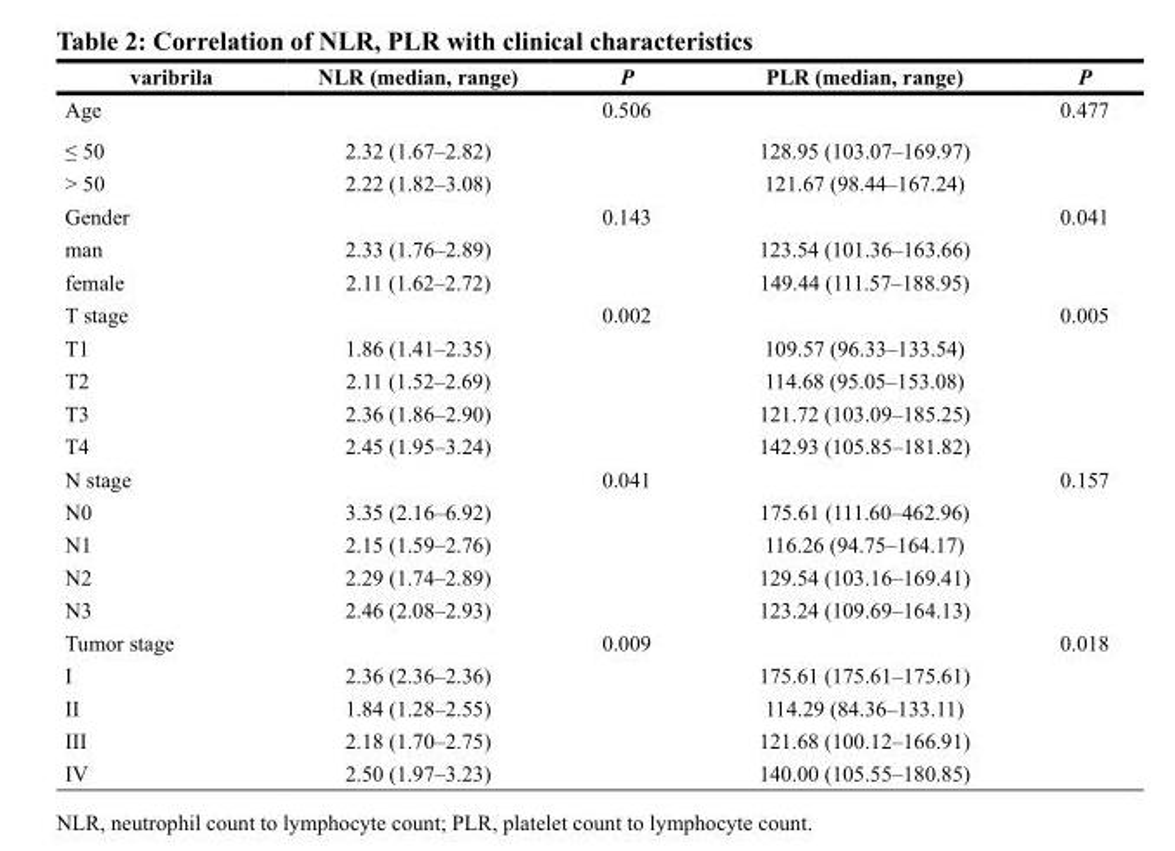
<table><thead><tr><td>varibrila</td><td>NLR (median, range)</td><td>P</td><td>PLR (median, range)</td><td>P</td></tr></thead><tbody><tr><td>Age</td><td></td><td>0.506</td><td></td><td>0.477</td></tr><tr><td>≤ 50</td><td>2.32 (1.67–2.82)</td><td></td><td>128.95 (103.07–169.97)</td><td></td></tr><tr><td>&gt; 50</td><td>2.22 (1.82–3.08)</td><td></td><td>121.67 (98.44–167.24)</td><td></td></tr><tr><td>Gender</td><td></td><td>0.143</td><td></td><td>0.041</td></tr><tr><td>man</td><td>2.33 (1.76–2.89)</td><td></td><td>123.54 (101.36–163.66)</td><td></td></tr><tr><td>female</td><td>2.11 (1.62–2.72)</td><td></td><td>149.44 (111.57–188.95)</td><td></td></tr><tr><td>T stage</td><td></td><td>0.002</td><td></td><td>0.005</td></tr><tr><td>T1</td><td>1.86 (1.41–2.35)</td><td></td><td>109.57 (96.33–133.54)</td><td></td></tr><tr><td>T2</td><td>2.11 (1.52–2.69)</td><td></td><td>114.68 (95.05–153.08)</td><td></td></tr><tr><td>T3</td><td>2.36 (1.86–2.90)</td><td></td><td>121.72 (103.09–185.25)</td><td></td></tr><tr><td>T4</td><td>2.45 (1.95–3.24)</td><td></td><td>142.93 (105.85–181.82)</td><td></td></tr><tr><td>N stage</td><td></td><td>0.041</td><td></td><td>0.157</td></tr><tr><td>N0</td><td>3.35 (2.16–6.92)</td><td></td><td>175.61 (111.60–462.96)</td><td></td></tr><tr><td>N1</td><td>2.15 (1.59–2.76)</td><td></td><td>116.26 (94.75–164.17)</td><td></td></tr><tr><td>N2</td><td>2.29 (1.74–2.89)</td><td></td><td>129.54 (103.16–169.41)</td><td></td></tr><tr><td>N3</td><td>2.46 (2.08–2.93)</td><td></td><td>123.24 (109.69–164.13)</td><td></td></tr><tr><td>Tumor stage</td><td></td><td>0.009</td><td></td><td>0.018</td></tr><tr><td>I</td><td>2.36 (2.36–2.36)</td><td></td><td>175.61 (175.61–175.61)</td><td></td></tr><tr><td>II</td><td>1.84 (1.28–2.55)</td><td></td><td>114.29 (84.36–133.11)</td><td></td></tr><tr><td>III</td><td>2.18 (1.70–2.75)</td><td></td><td>121.68 (100.12–166.91)</td><td></td></tr><tr><td>IV</td><td>2.50 (1.97–3.23)</td><td></td><td>140.00 (105.55–180.85)</td><td></td></tr></tbody></table>